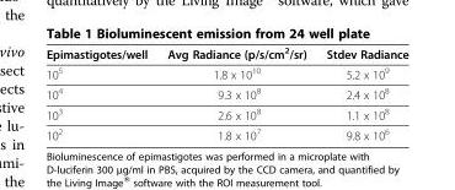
<table><thead><tr><td>Epimastigotes/well</td><td>Avg Radiance (p/s/cm<sup>2</sup>/sr)</td><td>Stdev Radiance</td></tr></thead><tbody><tr><td>10<sup>5</sup></td><td>1.8 x 10<sup>10</sup></td><td>5.2 x 10<sup>9</sup></td></tr><tr><td>10<sup>4</sup></td><td>9.3 x 10<sup>8</sup></td><td>2.4 x 10<sup>8</sup></td></tr><tr><td>10<sup>3</sup></td><td>2.6 x 10<sup>8</sup></td><td>1.1 x 10<sup>8</sup></td></tr><tr><td>10<sup>2</sup></td><td>1.8 x 10<sup>7</sup></td><td>9.8 x 10<sup>6</sup></td></tr></tbody></table>